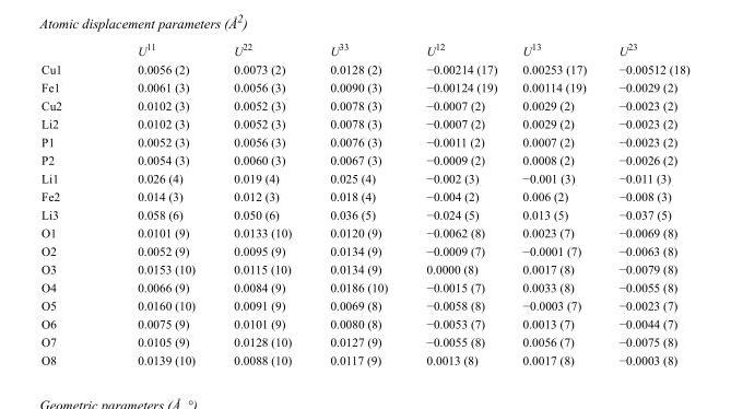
<table><thead><tr><td></td><td>U<sup>11</sup></td><td>U<sup>22</sup></td><td>U<sup>33</sup></td><td>U<sup>12</sup></td><td>U<sup>13</sup></td><td>U<sup>23</sup></td></tr></thead><tbody><tr><td>Cu1</td><td>0.0056 (2)</td><td>0.0073 (2)</td><td>0.0128 (2)</td><td>−0.00214 (17)</td><td>0.00253 (17)</td><td>−0.00512 (18)</td></tr><tr><td>Fe1</td><td>0.0061 (3)</td><td>0.0056 (3)</td><td>0.0090 (3)</td><td>−0.00124 (19)</td><td>0.00114 (19)</td><td>−0.0029 (2)</td></tr><tr><td>Cu2</td><td>0.0102 (3)</td><td>0.0052 (3)</td><td>0.0078 (3)</td><td>−0.0007 (2)</td><td>0.0029 (2)</td><td>−0.0023 (2)</td></tr><tr><td>Li2</td><td>0.0102 (3)</td><td>0.0052 (3)</td><td>0.0078 (3)</td><td>−0.0007 (2)</td><td>0.0029 (2)</td><td>−0.0023 (2)</td></tr><tr><td>P1</td><td>0.0052 (3)</td><td>0.0056 (3)</td><td>0.0076 (3)</td><td>−0.0011 (2)</td><td>0.0007 (2)</td><td>−0.0023 (2)</td></tr><tr><td>P2</td><td>0.0054 (3)</td><td>0.0060 (3)</td><td>0.0067 (3)</td><td>−0.0009 (2)</td><td>0.0008 (2)</td><td>−0.0026 (2)</td></tr><tr><td>Li1</td><td>0.026 (4)</td><td>0.019 (4)</td><td>0.025 (4)</td><td>−0.002 (3)</td><td>−0.001 (3)</td><td>−0.011 (3)</td></tr><tr><td>Fe2</td><td>0.014 (3)</td><td>0.012 (3)</td><td>0.018 (4)</td><td>−0.004 (2)</td><td>0.006 (2)</td><td>−0.008 (3)</td></tr><tr><td>Li3</td><td>0.058 (6)</td><td>0.050 (6)</td><td>0.036 (5)</td><td>−0.024 (5)</td><td>0.013 (5)</td><td>−0.037 (5)</td></tr><tr><td>O1</td><td>0.0101 (9)</td><td>0.0133 (10)</td><td>0.0120 (9)</td><td>−0.0062 (8)</td><td>0.0023 (7)</td><td>−0.0069 (8)</td></tr><tr><td>O2</td><td>0.0052 (9)</td><td>0.0095 (9)</td><td>0.0134 (9)</td><td>−0.0009 (7)</td><td>−0.0001 (7)</td><td>−0.0063 (8)</td></tr><tr><td>O3</td><td>0.0153 (10)</td><td>0.0115 (10)</td><td>0.0134 (9)</td><td>0.0000 (8)</td><td>0.0017 (8)</td><td>−0.0079 (8)</td></tr><tr><td>O4</td><td>0.0066 (9)</td><td>0.0084 (9)</td><td>0.0186 (10)</td><td>−0.0015 (7)</td><td>0.0033 (8)</td><td>−0.0055 (8)</td></tr><tr><td>O5</td><td>0.0160 (10)</td><td>0.0091 (9)</td><td>0.0069 (8)</td><td>−0.0058 (8)</td><td>−0.0003 (7)</td><td>−0.0023 (7)</td></tr><tr><td>O6</td><td>0.0075 (9)</td><td>0.0101 (9)</td><td>0.0080 (8)</td><td>−0.0053 (7)</td><td>0.0013 (7)</td><td>−0.0044 (7)</td></tr><tr><td>O7</td><td>0.0105 (9)</td><td>0.0128 (10)</td><td>0.0127 (9)</td><td>−0.0055 (8)</td><td>0.0056 (7)</td><td>−0.0075 (8)</td></tr><tr><td>O8</td><td>0.0139 (10)</td><td>0.0088 (10)</td><td>0.0117 (9)</td><td>0.0013 (8)</td><td>0.0017 (8)</td><td>−0.0003 (8)</td></tr></tbody></table>